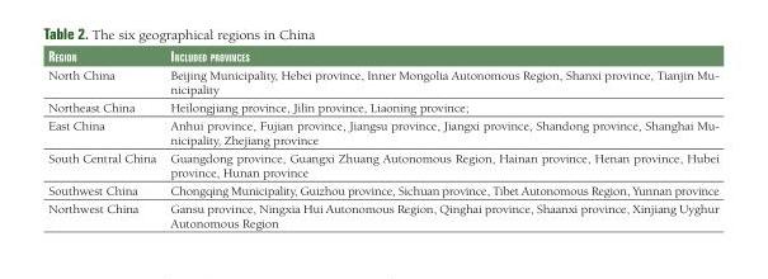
<table><thead><tr><td>Region</td><td>included pRovinces</td></tr></thead><tbody><tr><td>North China</td><td>Beijing Municipality, Hebei province, Inner Mongolia Autonomous Region, Shanxi province, Tianjin Mu- nicipality</td></tr><tr><td>Northeast China</td><td>Heilongjiang province, Jilin province, Liaoning province;</td></tr><tr><td>East China</td><td>Anhui province, Fujian province, Jiangsu province, Jiangxi province, Shandong province, Shanghai Mu- nicipality, Zhejiang province</td></tr><tr><td>South Central China</td><td>Guangdong province, Guangxi Zhuang Autonomous Region, Hainan province, Henan province, Hubei province, Hunan province</td></tr><tr><td>Southwest China</td><td>Chongqing Municipality, Guizhou province, Sichuan province, Tibet Autonomous Region, Yunnan province</td></tr><tr><td>Northwest China</td><td>Gansu province, Ningxia Hui Autonomous Region, Qinghai province, Shaanxi province, Xinjiang Uyghur Autonomous Region</td></tr></tbody></table>